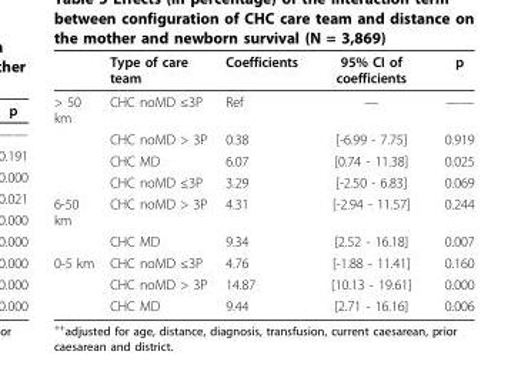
<table><thead><tr><td></td><td>Type of care team</td><td>Coefficients</td><td>95% CI of coefficients</td><td>p</td></tr></thead><tbody><tr><td rowspan="4">&gt; 50 km</td><td>CHC noMD ≤3P</td><td>Ref</td><td>—</td><td>——</td></tr><tr><td>CHC noMD &gt; 3P</td><td>0.38</td><td>[-6.99 - 7.75]</td><td>0.919</td></tr><tr><td>CHC MD</td><td>6.07</td><td>[0.74 - 11.38]</td><td>0.025</td></tr><tr><td>CHC noMD ≤3P</td><td>3.29</td><td>[-2.50 - 6.83]</td><td>0.069</td></tr><tr><td rowspan="2">6-50 km</td><td>CHC noMD &gt; 3P</td><td>4.31</td><td>[-2.94 - 11.57]</td><td>0.244</td></tr><tr><td>CHC MD</td><td>9.34</td><td>[2.52 - 16.18]</td><td>0.007</td></tr><tr><td rowspan="3">0-5 km</td><td>CHC noMD ≤3P</td><td>4.76</td><td>[-1.88 - 11.41]</td><td>0.160</td></tr><tr><td>CHC noMD &gt; 3P</td><td>14.87</td><td>[10.13 - 19.61]</td><td>0.000</td></tr><tr><td>CHC MD</td><td>9.44</td><td>[2.71 - 16.16]</td><td>0.006</td></tr></tbody></table>